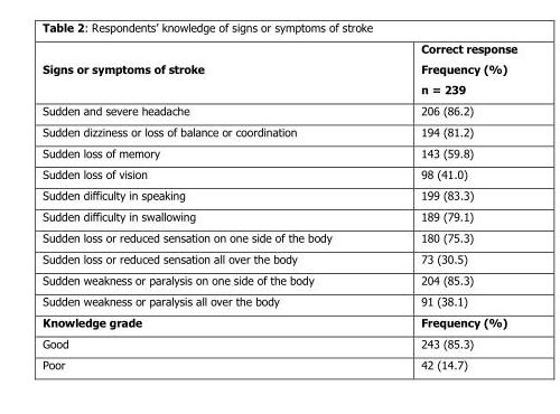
<table><thead><tr><td>Signs or symptoms of stroke</td><td>Correct response Frequency (%) n = 239</td></tr></thead><tbody><tr><td>Sudden and severe headache</td><td>206 (86.2)</td></tr><tr><td>Sudden dizziness or loss of balance or coordination</td><td>194 (81.2)</td></tr><tr><td>Sudden loss of memory</td><td>143 (59.8)</td></tr><tr><td>Sudden loss of vision</td><td>98 (41.0)</td></tr><tr><td>Sudden difficulty in speaking</td><td>199 (83.3)</td></tr><tr><td>Sudden difficulty in swallowing</td><td>189 (79.1)</td></tr><tr><td>Sudden loss or reduced sensation on one side of the body</td><td>180 (75.3)</td></tr><tr><td>Sudden loss or reduced sensation all over the body</td><td>73 (30.5)</td></tr><tr><td>Sudden weakness or paralysis on one side of the body</td><td>204 (85.3)</td></tr><tr><td>Sudden weakness or paralysis all over the body</td><td>91 (38.1)</td></tr><tr><td>Knowledge grade</td><td>Frequency (%)</td></tr><tr><td>Good</td><td>243 (85.3)</td></tr><tr><td>Poor</td><td>42 (14.7)</td></tr></tbody></table>